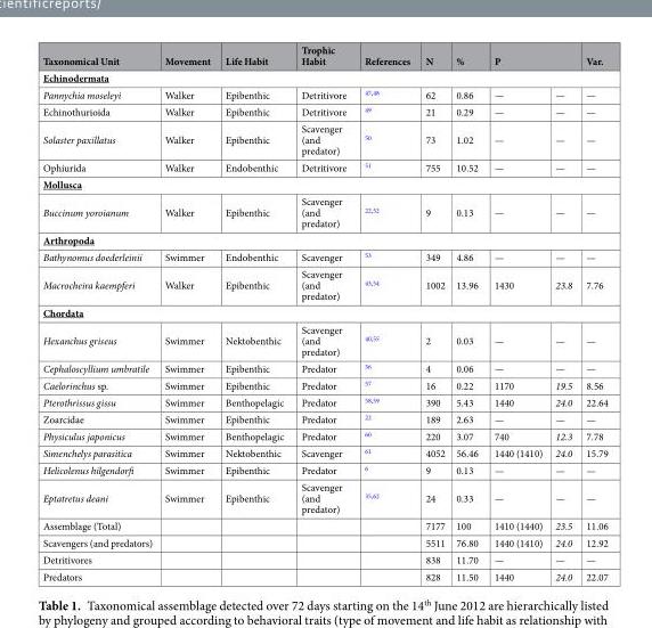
<table><thead><tr><td>Taxonomical Unit</td><td>Movement</td><td>Life Habit</td><td>Trophic Habit</td><td>References</td><td>N</td><td>%</td><td colspan="2">P</td><td>Var.</td></tr><tr><td colspan="10">Echinodermata</td></tr><tr><td>Pannychia moseleyi</td><td>Walker</td><td>Epibenthic</td><td>Detritivore</td><td><sup>47,48</sup></td><td>62</td><td>0.86</td><td>—</td><td>—</td><td>—</td></tr></thead><tbody><tr><td>Echinothurioida</td><td>Walker</td><td>Epibenthic</td><td>Detritivore</td><td><sup>49</sup></td><td>21</td><td>0.29</td><td>—</td><td>—</td><td>—</td></tr><tr><td>Solaster paxillatus</td><td>Walker</td><td>Epibenthic</td><td>Scavenger (and predator)</td><td><sup>50</sup></td><td>73</td><td>1.02</td><td>—</td><td>—</td><td>—</td></tr><tr><td>Ophiurida</td><td>Walker</td><td>Endobenthic</td><td>Detritivore</td><td><sup>51</sup></td><td>755</td><td>10.52</td><td>—</td><td>—</td><td>—</td></tr><tr><td colspan="10">Mollusca</td></tr><tr><td>Buccinum yoroianum</td><td>Walker</td><td>Epibenthic</td><td>Scavenger (and predator)</td><td><sup>22,52</sup></td><td>9</td><td>0.13</td><td>—</td><td>—</td><td>—</td></tr><tr><td colspan="10">Arthropoda</td></tr><tr><td>Bathynomus doederleinii</td><td>Swimmer</td><td>Endobenthic</td><td>Scavenger</td><td><sup>53</sup></td><td>349</td><td>4.86</td><td>—</td><td>—</td><td>—</td></tr><tr><td>Macrocheira kaempferi</td><td>Walker</td><td>Epibenthic</td><td>Scavenger (and predator)</td><td><sup>43,54</sup></td><td>1002</td><td>13.96</td><td>1430</td><td>23.8</td><td>7.76</td></tr><tr><td colspan="10">Chordata</td></tr><tr><td>Hexanchus griseus</td><td>Swimmer</td><td>Nektobenthic</td><td>Scavenger (and predator)</td><td><sup>40,55</sup></td><td>2</td><td>0.03</td><td>—</td><td>—</td><td>—</td></tr><tr><td>Cephaloscyllium umbratile</td><td>Swimmer</td><td>Epibenthic</td><td>Predator</td><td><sup>56</sup></td><td>4</td><td>0.06</td><td>—</td><td>—</td><td>—</td></tr><tr><td>Caelorinchus sp.</td><td>Swimmer</td><td>Epibenthic</td><td>Predator</td><td><sup>57</sup></td><td>16</td><td>0.22</td><td>1170</td><td>19.5</td><td>8.56</td></tr><tr><td>Pterothrissus gissu</td><td>Swimmer</td><td>Benthopelagic</td><td>Predator</td><td><sup>58,59</sup></td><td>390</td><td>5.43</td><td>1440</td><td>24.0</td><td>22.64</td></tr><tr><td>Zoarcidae</td><td>Swimmer</td><td>Epibenthic</td><td>Predator</td><td><sup>22</sup></td><td>189</td><td>2.63</td><td>—</td><td>—</td><td>—</td></tr><tr><td>Physiculus japonicus</td><td>Swimmer</td><td>Benthopelagic</td><td>Predator</td><td><sup>60</sup></td><td>220</td><td>3.07</td><td>740</td><td>12.3</td><td>7.78</td></tr><tr><td>Simenchelys parasitica</td><td>Swimmer</td><td>Nektobenthic</td><td>Scavenger</td><td><sup>61</sup></td><td>4052</td><td>56.46</td><td>1440 (1410)</td><td>24.0</td><td>15.79</td></tr><tr><td>Helicolenus hilgendorfi</td><td>Swimmer</td><td>Epibenthic</td><td>Predator</td><td><sup>6</sup></td><td>9</td><td>0.13</td><td>—</td><td>—</td><td>—</td></tr><tr><td>Eptatretus deani</td><td>Swimmer</td><td>Epibenthic</td><td>Scavenger (and predator)</td><td><sup>35,62</sup></td><td>24</td><td>0.33</td><td>—</td><td>—</td><td>—</td></tr><tr><td>Assemblage (Total)</td><td></td><td></td><td></td><td></td><td>7177</td><td>100</td><td>1410 (1440)</td><td>23.5</td><td>11.06</td></tr><tr><td>Scavengers (and predators)</td><td></td><td></td><td></td><td></td><td>5511</td><td>76.80</td><td>1440 (1410)</td><td>24.0</td><td>12.92</td></tr><tr><td>Detritivores</td><td></td><td></td><td></td><td></td><td>838</td><td>11.70</td><td>—</td><td>—</td><td>—</td></tr><tr><td>Predators</td><td></td><td></td><td></td><td></td><td>828</td><td>11.50</td><td>1440</td><td>24.0</td><td>22.07</td></tr></tbody></table>